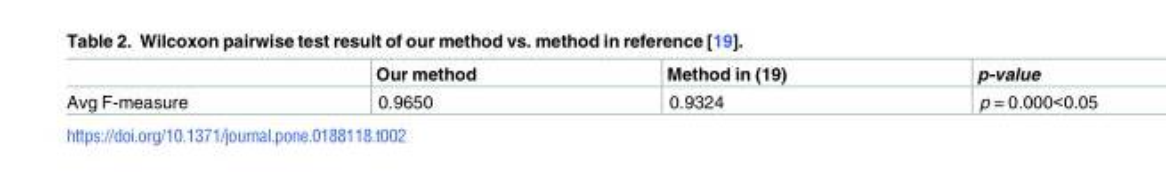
<table><thead><tr><td></td><td>Our method</td><td>Method in (19)</td><td>p-value</td></tr></thead><tbody><tr><td>Avg F-measure</td><td>0.9650</td><td>0.9324</td><td>p = 0.000&lt;0.05</td></tr></tbody></table>